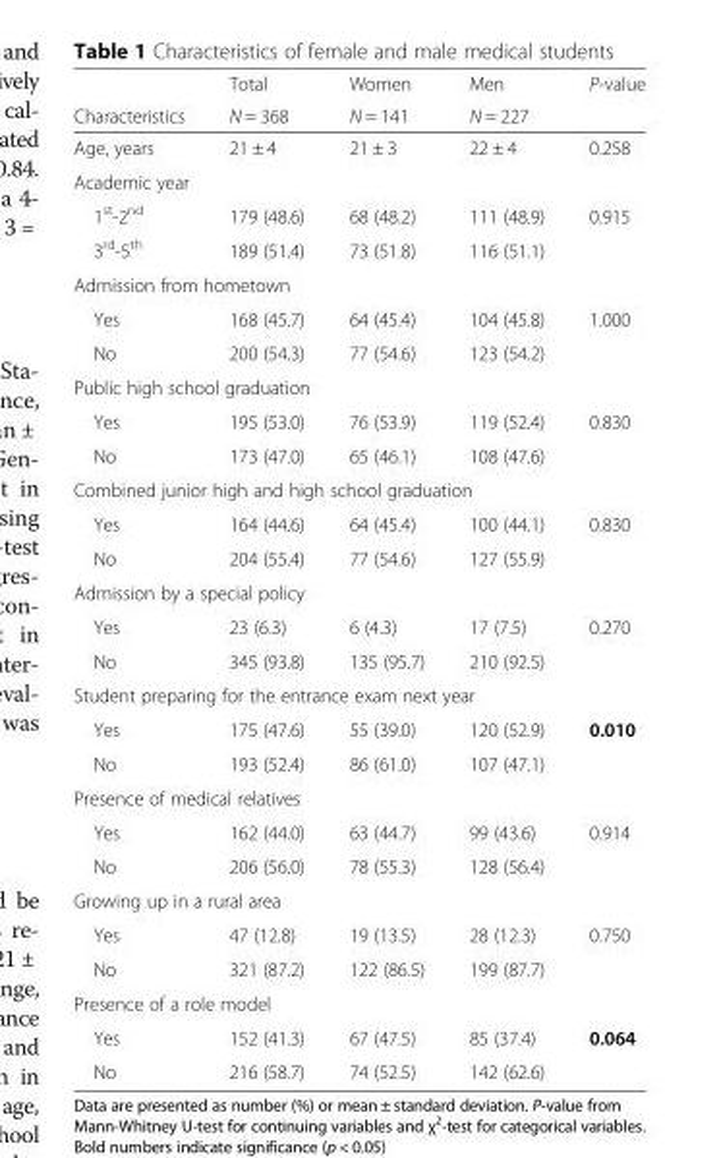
<table><thead><tr><td rowspan="2">Characteristics</td><td rowspan="2">Total N = 368</td><td rowspan="2">Women N = 141</td><td rowspan="2">Men N = 227</td><td rowspan="2">P-value</td></tr><tr></tr></thead><tbody><tr><td>Age, years</td><td>21 ± 4</td><td>21 ± 3</td><td>22 ± 4</td><td>0.258</td></tr><tr><td colspan="5">Academic year</td></tr><tr><td>1<sup>st</sup>-2<sup>nd</sup></td><td>179 (48.6)</td><td>68 (48.2)</td><td>111 (48.9)</td><td rowspan="2">0.915</td></tr><tr><td>3<sup>rd</sup>-5<sup>th</sup></td><td>189 (51.4)</td><td>73 (51.8)</td><td>116 (51.1)</td></tr><tr><td colspan="5">Admission from hometown</td></tr><tr><td>Yes</td><td>168 (45.7)</td><td>64 (45.4)</td><td>104 (45.8)</td><td rowspan="2">1.000</td></tr><tr><td>No</td><td>200 (54.3)</td><td>77 (54.6)</td><td>123 (54.2)</td></tr><tr><td colspan="5">Public high school graduation</td></tr><tr><td>Yes</td><td>195 (53.0)</td><td>76 (53.9)</td><td>119 (52.4)</td><td rowspan="2">0.830</td></tr><tr><td>No</td><td>173 (47.0)</td><td>65 (46.1)</td><td>108 (47.6)</td></tr><tr><td colspan="5">Combined junior high and high school graduation</td></tr><tr><td>Yes</td><td>164 (44.6)</td><td>64 (45.4)</td><td>100 (44.1)</td><td rowspan="2">0.830</td></tr><tr><td>No</td><td>204 (55.4)</td><td>77 (54.6)</td><td>127 (55.9)</td></tr><tr><td colspan="5">Admission by a special policy</td></tr><tr><td>Yes</td><td>23 (6.3)</td><td>6 (4.3)</td><td>17 (7.5)</td><td rowspan="2">0.270</td></tr><tr><td>No</td><td>345 (93.8)</td><td>135 (95.7)</td><td>210 (92.5)</td></tr><tr><td colspan="5">Student preparing for the entrance exam next year</td></tr><tr><td>Yes</td><td>175 (47.6)</td><td>55 (39.0)</td><td>120 (52.9)</td><td rowspan="2">0.010</td></tr><tr><td>No</td><td>193 (52.4)</td><td>86 (61.0)</td><td>107 (47.1)</td></tr><tr><td colspan="5">Presence of medical relatives</td></tr><tr><td>Yes</td><td>162 (44.0)</td><td>63 (44.7)</td><td>99 (43.6)</td><td rowspan="2">0.914</td></tr><tr><td>No</td><td>206 (56.0)</td><td>78 (55.3)</td><td>128 (56.4)</td></tr><tr><td colspan="5">Growing up in a rural area</td></tr><tr><td>Yes</td><td>47 (12.8)</td><td>19 (13.5)</td><td>28 (12.3)</td><td rowspan="2">0.750</td></tr><tr><td>No</td><td>321 (87.2)</td><td>122 (86.5)</td><td>199 (87.7)</td></tr><tr><td colspan="5">Presence of a role model</td></tr><tr><td>Yes</td><td>152 (41.3)</td><td>67 (47.5)</td><td>85 (37.4)</td><td rowspan="2">0.064</td></tr><tr><td>No</td><td>216 (58.7)</td><td>74 (52.5)</td><td>142 (62.6)</td></tr></tbody></table>